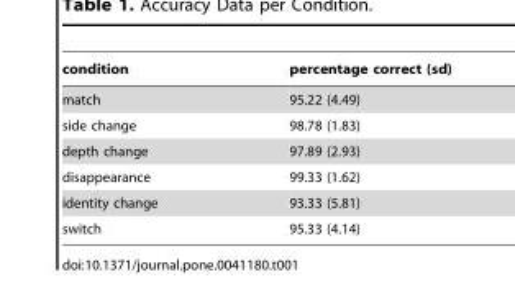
<table><thead><tr><td>condition</td><td>percentage correct (sd)</td></tr></thead><tbody><tr><td>match</td><td>95.22 (4.49)</td></tr><tr><td>side change</td><td>98.78 (1.83)</td></tr><tr><td>depth change</td><td>97.89 (2.93)</td></tr><tr><td>disappearance</td><td>99.33 (1.62)</td></tr><tr><td>identity change</td><td>93.33 (5.81)</td></tr><tr><td>switch</td><td>95.33 (4.14)</td></tr></tbody></table>